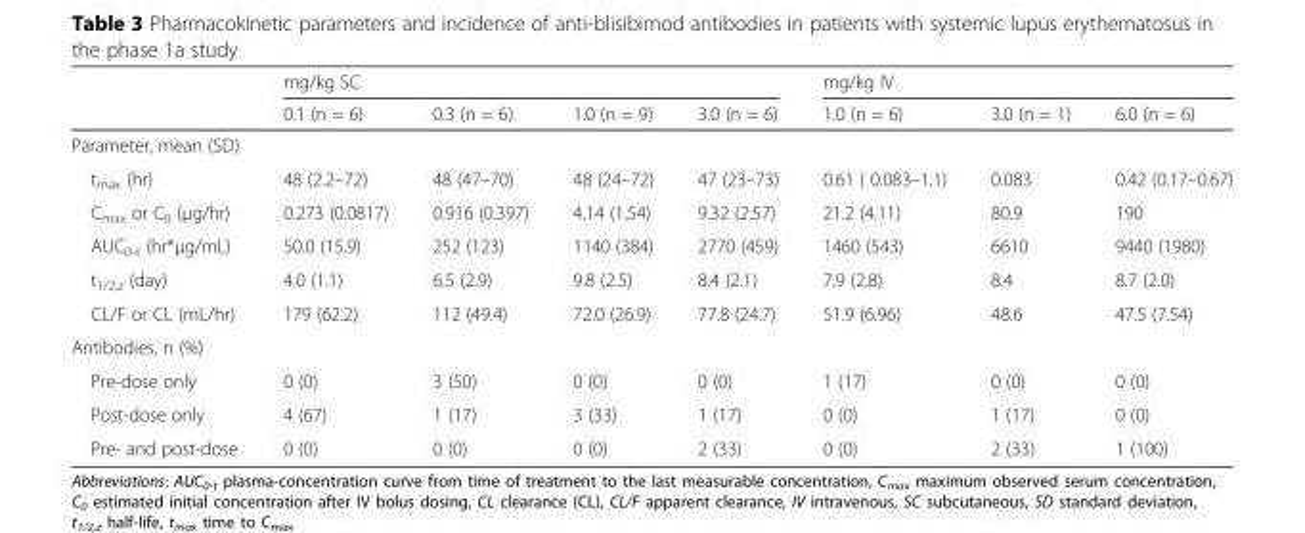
<table><thead><tr><td rowspan="2"></td><td colspan="4">mg/kg SC</td><td colspan="3">mg/kg IV</td></tr><tr><td>0.1 (n = 6)</td><td>0.3 (n = 6)</td><td>1.0 (n = 9)</td><td>3.0 (n = 6)</td><td>1.0 (n = 6)</td><td>3.0 (n = 1)</td><td>6.0 (n = 6)</td></tr></thead><tbody><tr><td colspan="8">Parameter, mean (SD)</td></tr><tr><td>t<sub>max</sub> (hr)</td><td>48 (2.2–72)</td><td>48 (47–70)</td><td>48 (24–72)</td><td>47 (23–73)</td><td>0.61 ( 0.083–1.1)</td><td>0.083</td><td>0.42 (0.17–0.67)</td></tr><tr><td>C<sub>max</sub> or C<sub>0</sub> (μg/hr)</td><td>0.273 (0.0817)</td><td>0.916 (0.397)</td><td>4.14 (1.54)</td><td>9.32 (2.57)</td><td>21.2 (4.11)</td><td>80.9</td><td>190</td></tr><tr><td>AUC<sub>0-t</sub> (hr*μg/mL)</td><td>50.0 (15.9)</td><td>252 (123)</td><td>1140 (384)</td><td>2770 (459)</td><td>1460 (543)</td><td>6610</td><td>9440 (1980)</td></tr><tr><td>t<sub>1/2,z</sub> (day)</td><td>4.0 (1.1)</td><td>6.5 (2.9)</td><td>9.8 (2.5)</td><td>8.4 (2.1)</td><td>7.9 (2.8)</td><td>8.4</td><td>8.7 (2.0)</td></tr><tr><td>CL/F or CL (mL/hr)</td><td>179 (62.2)</td><td>112 (49.4)</td><td>72.0 (26.9)</td><td>77.8 (24.7)</td><td>51.9 (6.96)</td><td>48.6</td><td>47.5 (7.54)</td></tr><tr><td colspan="8">Antibodies, n (%)</td></tr><tr><td>Pre-dose only</td><td>0 (0)</td><td>3 (50)</td><td>0 (0)</td><td>0 (0)</td><td>1 (17)</td><td>0 (0)</td><td>0 (0)</td></tr><tr><td>Post-dose only</td><td>4 (67)</td><td>1 (17)</td><td>3 (33)</td><td>1 (17)</td><td>0 (0)</td><td>1 (17)</td><td>0 (0)</td></tr><tr><td>Pre- and post-dose</td><td>0 (0)</td><td>0 (0)</td><td>0 (0)</td><td>2 (33)</td><td>0 (0)</td><td>2 (33)</td><td>1 (100)</td></tr></tbody></table>